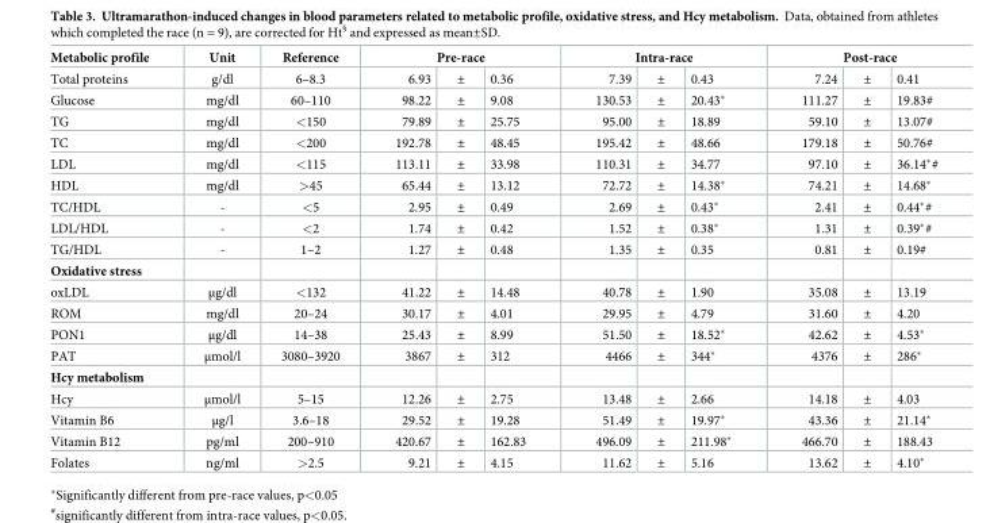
<table><thead><tr><td rowspan="2">Metabolic profile Total proteins</td><td rowspan="2">Unit g/dl</td><td rowspan="2">Reference 6–8.3</td><td colspan="3">Pre-race</td><td colspan="3">Intra-race</td><td colspan="3">Post-race</td></tr><tr><td>6.93</td><td>±</td><td>0.36</td><td>7.39</td><td>±</td><td>0.43</td><td>7.24</td><td>±</td><td>0.41</td></tr></thead><tbody><tr><td>Glucose</td><td>mg/dl</td><td>60–110</td><td>98.22</td><td>±</td><td>9.08</td><td>130.53</td><td>±</td><td>20.43*</td><td>111.27</td><td>±</td><td>19.83#</td></tr><tr><td>TG</td><td>mg/dl</td><td>&lt;150</td><td>79.89</td><td>±</td><td>25.75</td><td>95.00</td><td>±</td><td>18.89</td><td>59.10</td><td>±</td><td>13.07#</td></tr><tr><td>TC</td><td>mg/dl</td><td>&lt;200</td><td>192.78</td><td>±</td><td>48.45</td><td>195.42</td><td>±</td><td>48.66</td><td>179.18</td><td>±</td><td>50.76#</td></tr><tr><td>LDL</td><td>mg/dl</td><td>&lt;115</td><td>113.11</td><td>±</td><td>33.98</td><td>110.31</td><td>±</td><td>34.77</td><td>97.10</td><td>±</td><td>36.14*#</td></tr><tr><td>HDL</td><td>mg/dl</td><td>&gt;45</td><td>65.44</td><td>±</td><td>13.12</td><td>72.72</td><td>±</td><td>14.38*</td><td>74.21</td><td>±</td><td>14.68*</td></tr><tr><td>TC/HDL</td><td>-</td><td>&lt;5</td><td>2.95</td><td>±</td><td>0.49</td><td>2.69</td><td>±</td><td>0.43*</td><td>2.41</td><td>±</td><td>0.44*#</td></tr><tr><td>LDL/HDL</td><td>-</td><td>&lt;2</td><td>1.74</td><td>±</td><td>0.42</td><td>1.52</td><td>±</td><td>0.38*</td><td>1.31</td><td>±</td><td>0.39*#</td></tr><tr><td>TG/HDL</td><td>-</td><td>1–2</td><td>1.27</td><td>±</td><td>0.48</td><td>1.35</td><td>±</td><td>0.35</td><td>0.81</td><td>±</td><td>0.19#</td></tr><tr><td colspan="12">Oxidative stress</td></tr><tr><td>oxLDL</td><td>μg/dl</td><td>&lt;132</td><td>41.22</td><td>±</td><td>14.48</td><td>40.78</td><td>±</td><td>1.90</td><td>35.08</td><td>±</td><td>13.19</td></tr><tr><td>ROM</td><td>mg/dl</td><td>20–24</td><td>30.17</td><td>±</td><td>4.01</td><td>29.95</td><td>±</td><td>4.79</td><td>31.60</td><td>±</td><td>4.20</td></tr><tr><td>PON1</td><td>μg/dl</td><td>14–38</td><td>25.43</td><td>±</td><td>8.99</td><td>51.50</td><td>±</td><td>18.52*</td><td>42.62</td><td>±</td><td>4.53*</td></tr><tr><td>PAT</td><td>μmol/l</td><td>3080–3920</td><td>3867</td><td>±</td><td>312</td><td>4466</td><td>±</td><td>344*</td><td>4376</td><td>±</td><td>286*</td></tr><tr><td colspan="12">Hcy metabolism</td></tr><tr><td>Hcy</td><td>μmol/l</td><td>5–15</td><td>12.26</td><td>±</td><td>2.75</td><td>13.48</td><td>±</td><td>2.66</td><td>14.18</td><td>±</td><td>4.03</td></tr><tr><td>Vitamin B6</td><td>μg/l</td><td>3.6–18</td><td>29.52</td><td>±</td><td>19.28</td><td>51.49</td><td>±</td><td>19.97*</td><td>43.36</td><td>±</td><td>21.14*</td></tr><tr><td>Vitamin B12</td><td>pg/ml</td><td>200–910</td><td>420.67</td><td>±</td><td>162.83</td><td>496.09</td><td>±</td><td>211.98*</td><td>466.70</td><td>±</td><td>188.43</td></tr><tr><td>Folates</td><td>ng/ml</td><td>&gt;2.5</td><td>9.21</td><td>±</td><td>4.15</td><td>11.62</td><td>±</td><td>5.16</td><td>13.62</td><td>±</td><td>4.10*</td></tr></tbody></table>